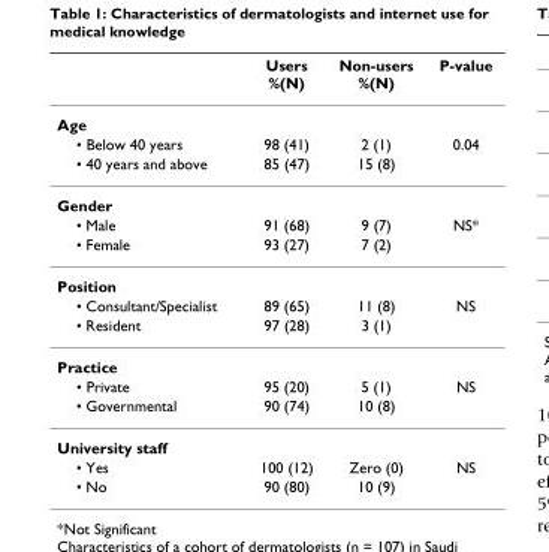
<table><thead><tr><td></td><td>Users %(N)</td><td>Non-users %(N)</td><td>P-value</td></tr></thead><tbody><tr><td colspan="4">Age</td></tr><tr><td>• Below 40 years</td><td>98 (41)</td><td>2 (1)</td><td>0.04</td></tr><tr><td>• 40 years and above</td><td>85 (47)</td><td>15 (8)</td><td></td></tr><tr><td colspan="4">Gender</td></tr><tr><td>• Male</td><td>91 (68)</td><td>9 (7)</td><td>NS*</td></tr><tr><td>• Female</td><td>93 (27)</td><td>7 (2)</td><td></td></tr><tr><td colspan="4">Position</td></tr><tr><td>• Consultant/Specialist</td><td>89 (65)</td><td>11 (8)</td><td>NS</td></tr><tr><td>• Resident</td><td>97 (28)</td><td>3 (1)</td><td></td></tr><tr><td colspan="4">Practice</td></tr><tr><td>• Private</td><td>95 (20)</td><td>5 (1)</td><td>NS</td></tr><tr><td>• Governmental</td><td>90 (74)</td><td>10 (8)</td><td></td></tr><tr><td colspan="4">University staff</td></tr><tr><td>• Yes</td><td>100 (12)</td><td>Zero (0)</td><td>NS</td></tr><tr><td>• No</td><td>90 (80)</td><td>10 (9)</td><td></td></tr></tbody></table>